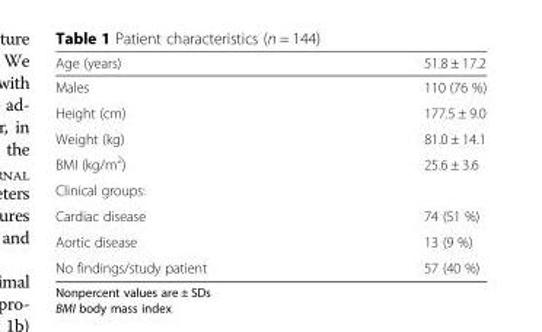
<table><thead><tr><td>Age (years)</td><td>51.8 ± 17.2</td></tr></thead><tbody><tr><td>Males</td><td>110 (76 %)</td></tr><tr><td>Height (cm)</td><td>177.5 ± 9.0</td></tr><tr><td>Weight (kg)</td><td>81.0 ± 14.1</td></tr><tr><td>BMI (kg/m<sup>2</sup>)</td><td>25.6 ± 3.6</td></tr><tr><td colspan="2">Clinical groups:</td></tr><tr><td>Cardiac disease</td><td>74 (51 %)</td></tr><tr><td>Aortic disease</td><td>13 (9 %)</td></tr><tr><td>No findings/study patient</td><td>57 (40 %)</td></tr></tbody></table>